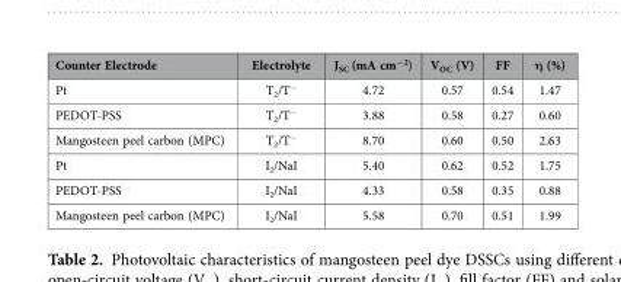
<table><thead><tr><td>Counter Electrode</td><td>Electrolyte</td><td>J<sub>SC</sub> (mA cm<sup>−2</sup>)</td><td>V<sub>OC</sub> (V)</td><td>FF</td><td>η (%)</td></tr></thead><tbody><tr><td>Pt</td><td>T<sub>2</sub>/T<sup>−</sup></td><td>4.72</td><td>0.57</td><td>0.54</td><td>1.47</td></tr><tr><td>PEDOT-PSS</td><td>T<sub>2</sub>/T<sup>−</sup></td><td>3.88</td><td>0.58</td><td>0.27</td><td>0.60</td></tr><tr><td>Mangosteen peel carbon (MPC)</td><td>T<sub>2</sub>/T<sup>−</sup></td><td>8.70</td><td>0.60</td><td>0.50</td><td>2.63</td></tr><tr><td>Pt</td><td>I<sub>2</sub>/NaI</td><td>5.40</td><td>0.62</td><td>0.52</td><td>1.75</td></tr><tr><td>PEDOT-PSS</td><td>I<sub>2</sub>/NaI</td><td>4.33</td><td>0.58</td><td>0.35</td><td>0.88</td></tr><tr><td>Mangosteen peel carbon (MPC)</td><td>I<sub>2</sub>/NaI</td><td>5.58</td><td>0.70</td><td>0.51</td><td>1.99</td></tr></tbody></table>